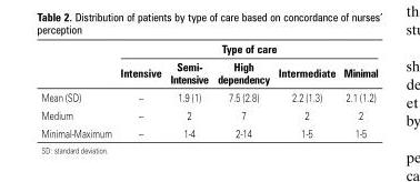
<table><thead><tr><td rowspan="2"></td><td colspan="5">Type of care</td></tr><tr><td>Intensive</td><td>Semi- Intensive</td><td>High dependency</td><td>Intermediate</td><td>Minimal</td></tr></thead><tbody><tr><td>Mean (SD)</td><td>--</td><td>1.9 (1)</td><td>7.5 (2.8)</td><td>2.2 (1.3)</td><td>2.1 (1.2)</td></tr><tr><td>Medium</td><td>--</td><td>2</td><td>7</td><td>2</td><td>2</td></tr><tr><td>Minimal-Maximum</td><td>--</td><td>1-4</td><td>2-14</td><td>1-5</td><td>1-5</td></tr></tbody></table>